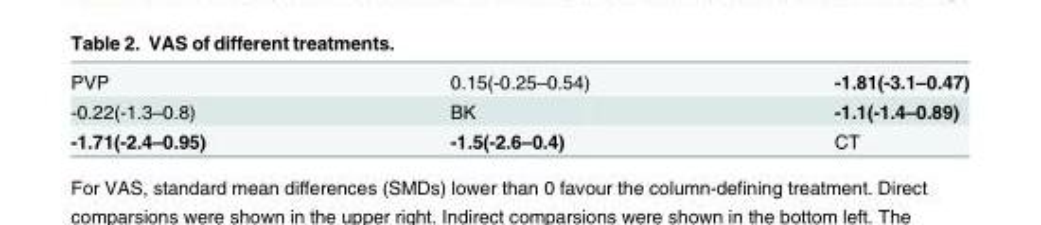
<table><tbody><tr><td>PVP</td><td>0.15(-0.25–0.54)</td><td>-1.81(-3.1–0.47)</td></tr><tr><td>-0.22(-1.3–0.8)</td><td>BK</td><td>-1.1(-1.4–0.89)</td></tr><tr><td>-1.71(-2.4–0.95)</td><td>-1.5(-2.6–0.4)</td><td>CT</td></tr></tbody></table>